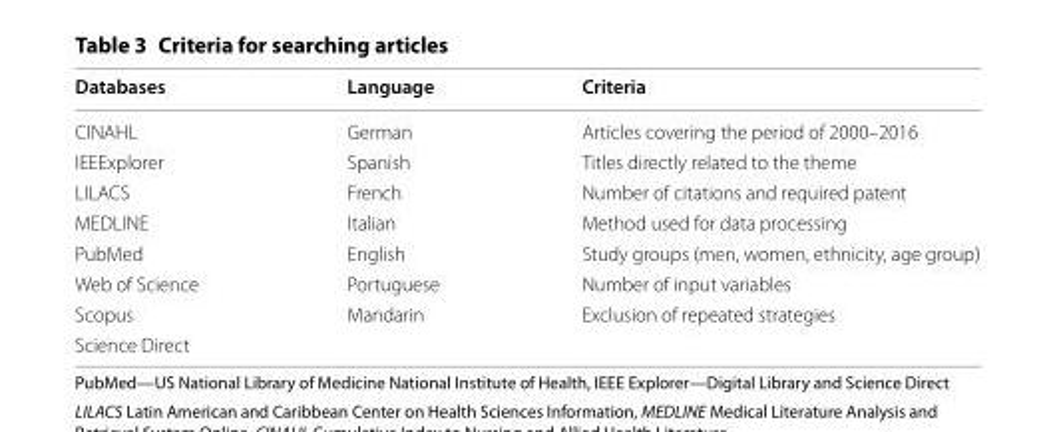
<table><thead><tr><td>Databases</td><td>Language</td><td>Criteria</td></tr></thead><tbody><tr><td>CINAHL</td><td>German</td><td>Articles covering the period of 2000–2016</td></tr><tr><td>IEEExplorer</td><td>Spanish</td><td>Titles directly related to the theme</td></tr><tr><td>LILACS</td><td>French</td><td>Number of citations and required patent</td></tr><tr><td>MEDLINE</td><td>Italian</td><td>Method used for data processing</td></tr><tr><td>PubMed</td><td>English</td><td>Study groups (men, women, ethnicity, age group)</td></tr><tr><td>Web of Science</td><td>Portuguese</td><td>Number of input variables</td></tr><tr><td>Scopus</td><td>Mandarin</td><td>Exclusion of repeated strategies</td></tr><tr><td>Science Direct</td><td></td><td></td></tr></tbody></table>